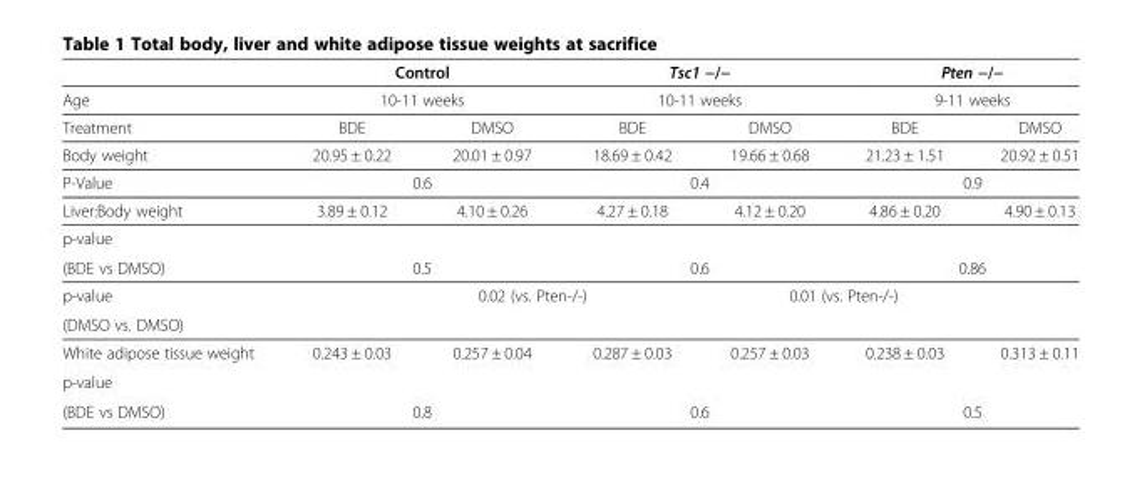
<table><thead><tr><td rowspan="3">Age Treatment</td><td rowspan="2" colspan="2">Control 10-11 weeks</td><td rowspan="2" colspan="2">Tsc1 −/− 10-11 weeks</td><td rowspan="2" colspan="2">Pten −/− 9-11 weeks</td></tr><tr></tr><tr><td>BDE</td><td>DMSO</td><td>BDE</td><td>DMSO</td><td>BDE</td><td>DMSO</td></tr></thead><tbody><tr><td>Body weight</td><td>20.95 ± 0.22</td><td>20.01 ± 0.97</td><td>18.69 ± 0.42</td><td>19.66 ± 0.68</td><td>21.23 ± 1.51</td><td>20.92 ± 0.51</td></tr><tr><td>P-Value</td><td colspan="2">0.6</td><td colspan="2">0.4</td><td colspan="2">0.9</td></tr><tr><td>Liver:Body weight</td><td>3.89 ± 0.12</td><td>4.10 ± 0.26</td><td>4.27 ± 0.18</td><td>4.12 ± 0.20</td><td>4.86 ± 0.20</td><td>4.90 ± 0.13</td></tr><tr><td>p-value</td><td rowspan="2" colspan="2">0.5</td><td rowspan="2" colspan="2">0.6</td><td rowspan="2" colspan="2">0.86</td></tr><tr><td>(BDE vs DMSO)</td></tr><tr><td>p-value</td><td colspan="3">0.02 (vs. Pten-/-)</td><td colspan="3">0.01 (vs. Pten-/-)</td></tr><tr><td colspan="7">(DMSO vs. DMSO)</td></tr><tr><td>White adipose tissue weight</td><td>0.243 ± 0.03</td><td>0.257 ± 0.04</td><td>0.287 ± 0.03</td><td>0.257 ± 0.03</td><td>0.238 ± 0.03</td><td>0.313 ± 0.11</td></tr><tr><td>p-value</td><td rowspan="2" colspan="2">0.8</td><td rowspan="2" colspan="2">0.6</td><td rowspan="2" colspan="2">0.5</td></tr><tr><td>(BDE vs DMSO)</td></tr></tbody></table>